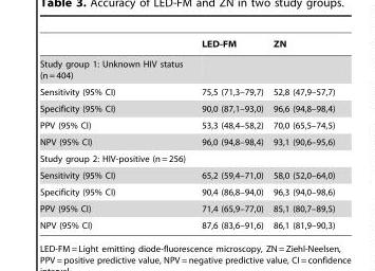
<table><thead><tr><td></td><td>LED-FM</td><td>ZN</td></tr></thead><tbody><tr><td colspan="3">Study group 1: Unknown HIV status (n = 404)</td></tr><tr><td>Sensitivity (95% CI)</td><td>75,5 (71,3–79,7)</td><td>52,8 (47,9–57,7)</td></tr><tr><td>Specificity (95% CI)</td><td>90,0 (87,1–93,0)</td><td>96,6 (94,8–98,4)</td></tr><tr><td>PPV (95% CI)</td><td>53,3 (48,4–58,2)</td><td>70,0 (65,5–74,5)</td></tr><tr><td>NPV (95% CI)</td><td>96,0 (94,8–98,4)</td><td>93,1 (90,6–95,6)</td></tr><tr><td colspan="3">Study group 2: HIV-positive (n = 256)</td></tr><tr><td>Sensitivity (95% CI)</td><td>65,2 (59,4–71,0)</td><td>58,0 (52,0–64,0)</td></tr><tr><td>Specificity (95% CI)</td><td>90,4 (86,8–94,0)</td><td>96,3 (94,0–98,6)</td></tr><tr><td>PPV (95% CI)</td><td>71,4 (65,9–77,0)</td><td>85,1 (80,7–89,5)</td></tr><tr><td>NPV (95% CI)</td><td>87,6 (83,6–91,6)</td><td>86,1 (81,9–90,3)</td></tr></tbody></table>